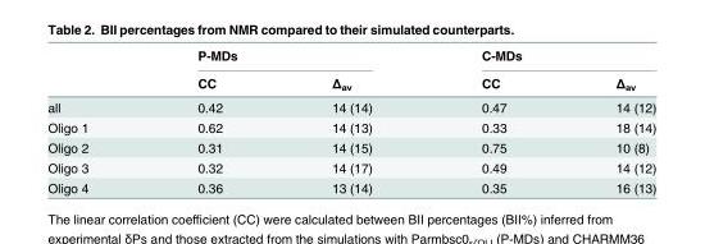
<table><thead><tr><td rowspan="2"></td><td colspan="2">P-MDs</td><td colspan="2">C-MDs</td></tr><tr><td>CC</td><td>Δ<sub>av</sub></td><td>CC</td><td>Δ<sub>av</sub></td></tr></thead><tbody><tr><td>all</td><td>0.42</td><td>14 (14)</td><td>0.47</td><td>14 (12)</td></tr><tr><td>Oligo 1</td><td>0.62</td><td>14 (13)</td><td>0.33</td><td>18 (14)</td></tr><tr><td>Oligo 2</td><td>0.31</td><td>14 (15)</td><td>0.75</td><td>10 (8)</td></tr><tr><td>Oligo 3</td><td>0.32</td><td>14 (17)</td><td>0.49</td><td>14 (12)</td></tr><tr><td>Oligo 4</td><td>0.36</td><td>13 (14)</td><td>0.35</td><td>16 (13)</td></tr></tbody></table>